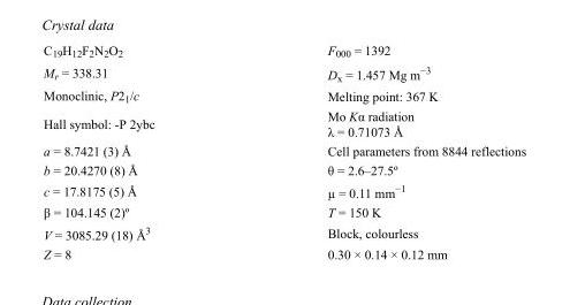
<table><tbody><tr><td>C<sub>19</sub>H<sub>12</sub>F<sub>2</sub>N<sub>2</sub>O<sub>2</sub></td><td>F000 = 1392</td></tr><tr><td>M<sub>r</sub> = 338.31</td><td>D<sub>x</sub> = 1.457 Mg m<sup>−3</sup></td></tr><tr><td>Monoclinic, P2<sub>1</sub>/c</td><td>Melting point: 367 K</td></tr><tr><td>Hall symbol: -P 2ybc</td><td>Mo Kα radiation λ = 0.71073 Å</td></tr><tr><td>a = 8.7421 (3) Å</td><td>Cell parameters from 8844 reflections</td></tr><tr><td>b = 20.4270 (8) Å</td><td>θ = 2.6–27.5º</td></tr><tr><td>c = 17.8175 (5) Å</td><td>µ = 0.11 mm<sup>−1</sup></td></tr><tr><td>β = 104.145 (2)º</td><td>T = 150 K</td></tr><tr><td>V = 3085.29 (18) Å<sup>3</sup></td><td>Block, colourless</td></tr><tr><td>Z = 8</td><td>0.30 × 0.14 × 0.12 mm</td></tr></tbody></table>